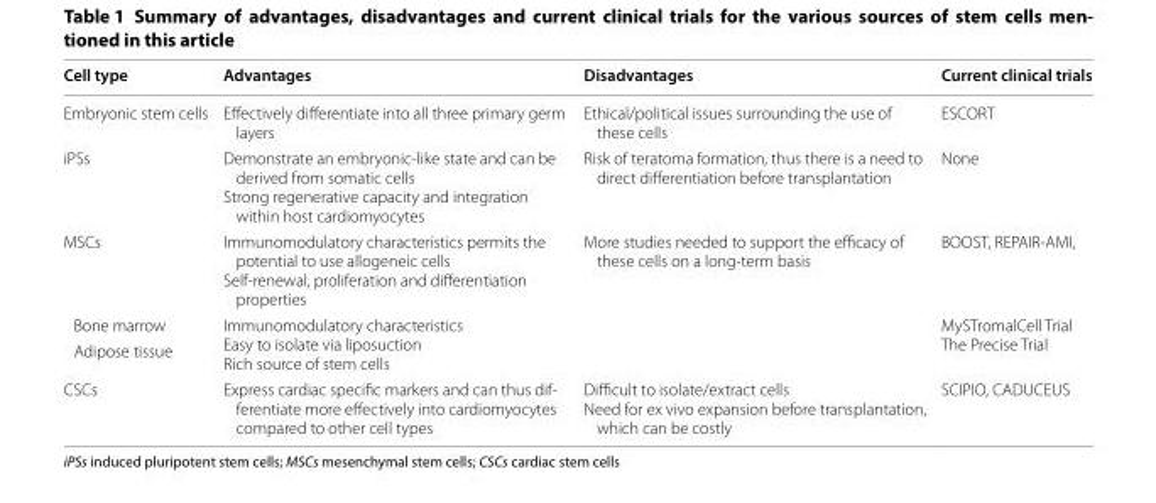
<table><thead><tr><td>Cell type</td><td>Advantages</td><td>Disadvantages</td><td>Current clinical trials</td></tr></thead><tbody><tr><td>Embryonic stem cells</td><td>Effectively differentiate into all three primary germ layers</td><td>Ethical/political issues surrounding the use of these cells</td><td>ESCORT</td></tr><tr><td>iPSs</td><td>Demonstrate an embryonic-like state and can be derived from somatic cells Strong regenerative capacity and integration within host cardiomyocytes</td><td>Risk of teratoma formation, thus there is a need to direct differentiation before transplantation</td><td>None</td></tr><tr><td>MSCs</td><td>Immunomodulatory characteristics permits the potential to use allogeneic cells Self-renewal, proliferation and differentiation properties</td><td rowspan="3">More studies needed to support the efficacy of these cells on a long-term basis</td><td>BOOST, REPAIR-AMI,</td></tr><tr><td>Bone marrow</td><td rowspan="2">Immunomodulatory characteristics Easy to isolate via liposuction Rich source of stem cells</td><td rowspan="2">MySTromalCell Trial The Precise Trial</td></tr><tr><td>Adipose tissue</td></tr><tr><td>CSCs</td><td>Express cardiac specific markers and can thus dif- ferentiate more effectively into cardiomyocytes compared to other cell types</td><td>Difficult to isolate/extract cells Need for ex vivo expansion before transplantation, which can be costly</td><td>SCIPIO, CADUCEUS</td></tr></tbody></table>